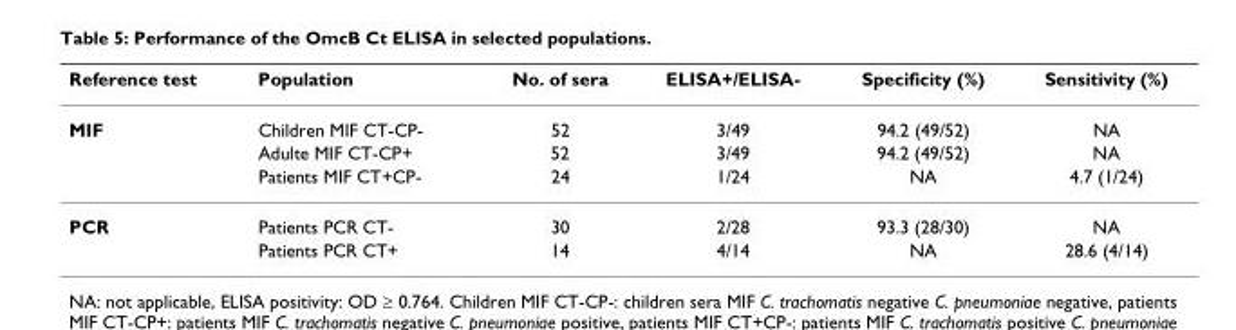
<table><thead><tr><td>Reference test</td><td>Population</td><td>No. of sera</td><td>ELISA+/ELISA-</td><td>Specificity (%)</td><td>Sensitivity (%)</td></tr></thead><tbody><tr><td rowspan="3">MIF</td><td>Children MIF CT-CP-</td><td>52</td><td>3/49</td><td>94.2 (49/52)</td><td>NA</td></tr><tr><td>Adulte MIF CT-CP+</td><td>52</td><td>3/49</td><td>94.2 (49/52)</td><td>NA</td></tr><tr><td>Patients MIF CT+CP-</td><td>24</td><td>1/24</td><td>NA</td><td>4.7 (1/24)</td></tr><tr><td rowspan="2">PCR</td><td>Patients PCR CT-</td><td>30</td><td>2/28</td><td>93.3 (28/30)</td><td>NA</td></tr><tr><td>Patients PCR CT+</td><td>14</td><td>4/14</td><td>NA</td><td>28.6 (4/14)</td></tr></tbody></table>